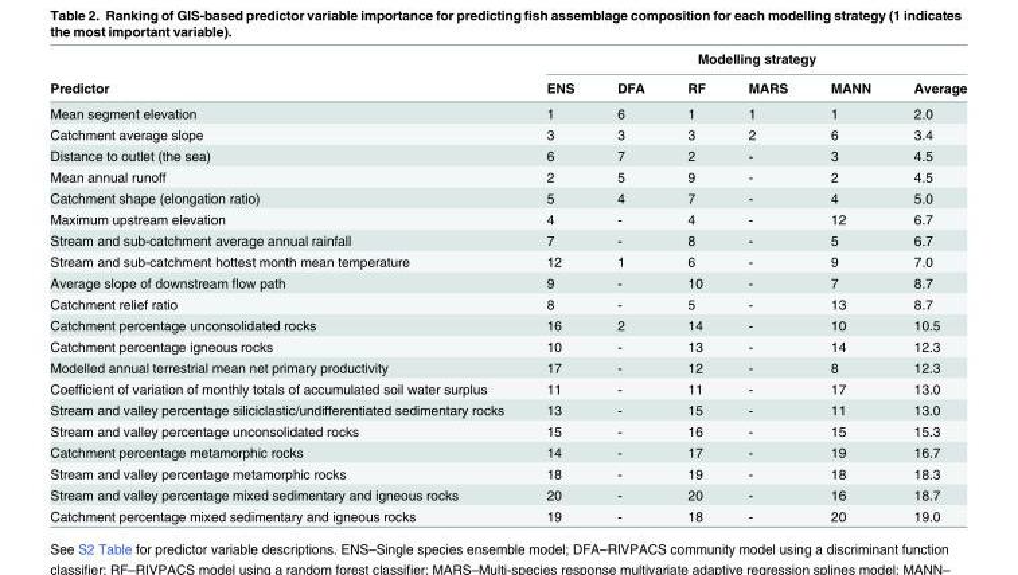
<table><thead><tr><td rowspan="2">Predictor</td><td colspan="6">Modelling strategy</td></tr><tr><td>ENS</td><td>DFA</td><td>RF</td><td>MARS</td><td>MANN</td><td>Average</td></tr></thead><tbody><tr><td>Mean segment elevation</td><td>1</td><td>6</td><td>1</td><td>1</td><td>1</td><td>2.0</td></tr><tr><td>Catchment average slope</td><td>3</td><td>3</td><td>3</td><td>2</td><td>6</td><td>3.4</td></tr><tr><td>Distance to outlet (the sea)</td><td>6</td><td>7</td><td>2</td><td>-</td><td>3</td><td>4.5</td></tr><tr><td>Mean annual runoff</td><td>2</td><td>5</td><td>9</td><td>-</td><td>2</td><td>4.5</td></tr><tr><td>Catchment shape (elongation ratio)</td><td>5</td><td>4</td><td>7</td><td>-</td><td>4</td><td>5.0</td></tr><tr><td>Maximum upstream elevation</td><td>4</td><td>-</td><td>4</td><td>-</td><td>12</td><td>6.7</td></tr><tr><td>Stream and sub-catchment average annual rainfall</td><td>7</td><td>-</td><td>8</td><td>-</td><td>5</td><td>6.7</td></tr><tr><td>Stream and sub-catchment hottest month mean temperature</td><td>12</td><td>1</td><td>6</td><td>-</td><td>9</td><td>7.0</td></tr><tr><td>Average slope of downstream flow path</td><td>9</td><td>-</td><td>10</td><td>-</td><td>7</td><td>8.7</td></tr><tr><td>Catchment relief ratio</td><td>8</td><td>-</td><td>5</td><td>-</td><td>13</td><td>8.7</td></tr><tr><td>Catchment percentage unconsolidated rocks</td><td>16</td><td>2</td><td>14</td><td>-</td><td>10</td><td>10.5</td></tr><tr><td>Catchment percentage igneous rocks</td><td>10</td><td>-</td><td>13</td><td>-</td><td>14</td><td>12.3</td></tr><tr><td>Modelled annual terrestrial mean net primary productivity</td><td>17</td><td>-</td><td>12</td><td>-</td><td>8</td><td>12.3</td></tr><tr><td>Coefficient of variation of monthly totals of accumulated soil water surplus</td><td>11</td><td>-</td><td>11</td><td>-</td><td>17</td><td>13.0</td></tr><tr><td>Stream and valley percentage siliciclastic/undifferentiated sedimentary rocks</td><td>13</td><td>-</td><td>15</td><td>-</td><td>11</td><td>13.0</td></tr><tr><td>Stream and valley percentage unconsolidated rocks</td><td>15</td><td>-</td><td>16</td><td>-</td><td>15</td><td>15.3</td></tr><tr><td>Catchment percentage metamorphic rocks</td><td>14</td><td>-</td><td>17</td><td>-</td><td>19</td><td>16.7</td></tr><tr><td>Stream and valley percentage metamorphic rocks</td><td>18</td><td>-</td><td>19</td><td>-</td><td>18</td><td>18.3</td></tr><tr><td>Stream and valley percentage mixed sedimentary and igneous rocks</td><td>20</td><td>-</td><td>20</td><td>-</td><td>16</td><td>18.7</td></tr><tr><td>Catchment percentage mixed sedimentary and igneous rocks</td><td>19</td><td>-</td><td>18</td><td>-</td><td>20</td><td>19.0</td></tr></tbody></table>